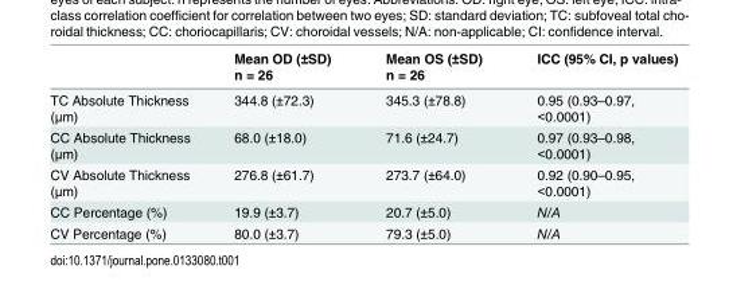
<table><thead><tr><td></td><td>Mean OD (±SD) n = 26</td><td>Mean OS (±SD) n = 26</td><td>ICC (95% CI, p values)</td></tr></thead><tbody><tr><td>TC Absolute Thickness (μm)</td><td>344.8 (±72.3)</td><td>345.3 (±78.8)</td><td>0.95 (0.93–0.97, &lt;0.0001)</td></tr><tr><td>CC Absolute Thickness (μm)</td><td>68.0 (±18.0)</td><td>71.6 (±24.7)</td><td>0.97 (0.93–0.98, &lt;0.0001)</td></tr><tr><td>CV Absolute Thickness (μm)</td><td>276.8 (±61.7)</td><td>273.7 (±64.0)</td><td>0.92 (0.90–0.95, &lt;0.0001)</td></tr><tr><td>CC Percentage (%)</td><td>19.9 (±3.7)</td><td>20.7 (±5.0)</td><td>N/A</td></tr><tr><td>CV Percentage (%)</td><td>80.0 (±3.7)</td><td>79.3 (±5.0)</td><td>N/A</td></tr></tbody></table>